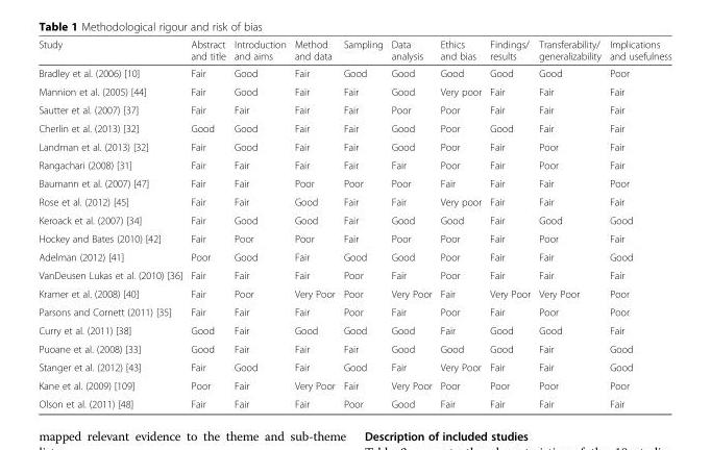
<table><thead><tr><td>Study</td><td>Abstract and title</td><td>Introduction and aims</td><td>Method and data</td><td>Sampling</td><td>Data analysis</td><td>Ethics and bias</td><td>Findings/ results</td><td>Transferability/ generalizability</td><td>Implications and usefulness</td></tr></thead><tbody><tr><td>Bradley et al. (2006) [10]</td><td>Fair</td><td>Good</td><td>Fair</td><td>Good</td><td>Good</td><td>Good</td><td>Good</td><td>Good</td><td>Poor</td></tr><tr><td>Mannion et al. (2005) [44]</td><td>Fair</td><td>Good</td><td>Fair</td><td>Fair</td><td>Good</td><td>Very poor</td><td>Fair</td><td>Fair</td><td>Fair</td></tr><tr><td>Sautter et al. (2007) [37]</td><td>Fair</td><td>Fair</td><td>Fair</td><td>Fair</td><td>Poor</td><td>Poor</td><td>Fair</td><td>Fair</td><td>Fair</td></tr><tr><td>Cherlin et al. (2013) [32]</td><td>Good</td><td>Good</td><td>Fair</td><td>Fair</td><td>Good</td><td>Poor</td><td>Good</td><td>Fair</td><td>Fair</td></tr><tr><td>Landman et al. (2013) [32]</td><td>Fair</td><td>Good</td><td>Fair</td><td>Fair</td><td>Good</td><td>Poor</td><td>Fair</td><td>Poor</td><td>Fair</td></tr><tr><td>Rangachari (2008) [31]</td><td>Fair</td><td>Fair</td><td>Fair</td><td>Fair</td><td>Fair</td><td>Poor</td><td>Fair</td><td>Poor</td><td>Fair</td></tr><tr><td>Baumann et al. (2007) [47]</td><td>Fair</td><td>Fair</td><td>Poor</td><td>Poor</td><td>Poor</td><td>Fair</td><td>Fair</td><td>Fair</td><td>Poor</td></tr><tr><td>Rose et al. (2012) [45]</td><td>Fair</td><td>Fair</td><td>Good</td><td>Fair</td><td>Fair</td><td>Very poor</td><td>Fair</td><td>Fair</td><td>Fair</td></tr><tr><td>Keroack et al. (2007) [34]</td><td>Fair</td><td>Good</td><td>Good</td><td>Fair</td><td>Good</td><td>Good</td><td>Fair</td><td>Good</td><td>Good</td></tr><tr><td>Hockey and Bates (2010) [42]</td><td>Fair</td><td>Poor</td><td>Poor</td><td>Fair</td><td>Poor</td><td>Poor</td><td>Fair</td><td>Poor</td><td>Fair</td></tr><tr><td>Adelman (2012) [41]</td><td>Poor</td><td>Good</td><td>Fair</td><td>Good</td><td>Good</td><td>Poor</td><td>Fair</td><td>Fair</td><td>Good</td></tr><tr><td>VanDeusen Lukas et al. (2010) [36]</td><td>Fair</td><td>Fair</td><td>Fair</td><td>Poor</td><td>Fair</td><td>Poor</td><td>Fair</td><td>Fair</td><td>Fair</td></tr><tr><td>Kramer et al. (2008) [40]</td><td>Fair</td><td>Poor</td><td>Very Poor</td><td>Poor</td><td>Very Poor</td><td>Fair</td><td>Very Poor</td><td>Very Poor</td><td>Poor</td></tr><tr><td>Parsons and Cornett (2011) [35]</td><td>Fair</td><td>Fair</td><td>Fair</td><td>Poor</td><td>Fair</td><td>Poor</td><td>Fair</td><td>Poor</td><td>Poor</td></tr><tr><td>Curry et al. (2011) [38]</td><td>Good</td><td>Fair</td><td>Good</td><td>Good</td><td>Good</td><td>Fair</td><td>Good</td><td>Good</td><td>Fair</td></tr><tr><td>Puoane et al. (2008) [33]</td><td>Good</td><td>Fair</td><td>Fair</td><td>Fair</td><td>Good</td><td>Good</td><td>Good</td><td>Fair</td><td>Good</td></tr><tr><td>Stanger et al. (2012) [43]</td><td>Fair</td><td>Good</td><td>Fair</td><td>Good</td><td>Fair</td><td>Very Poor</td><td>Fair</td><td>Fair</td><td>Good</td></tr><tr><td>Kane et al. (2009) [109]</td><td>Poor</td><td>Fair</td><td>Very Poor</td><td>Fair</td><td>Very Poor</td><td>Poor</td><td>Poor</td><td>Poor</td><td>Poor</td></tr><tr><td>Olson et al. (2011) [48]</td><td>Fair</td><td>Fair</td><td>Fair</td><td>Poor</td><td>Good</td><td>Fair</td><td>Fair</td><td>Fair</td><td>Fair</td></tr></tbody></table>